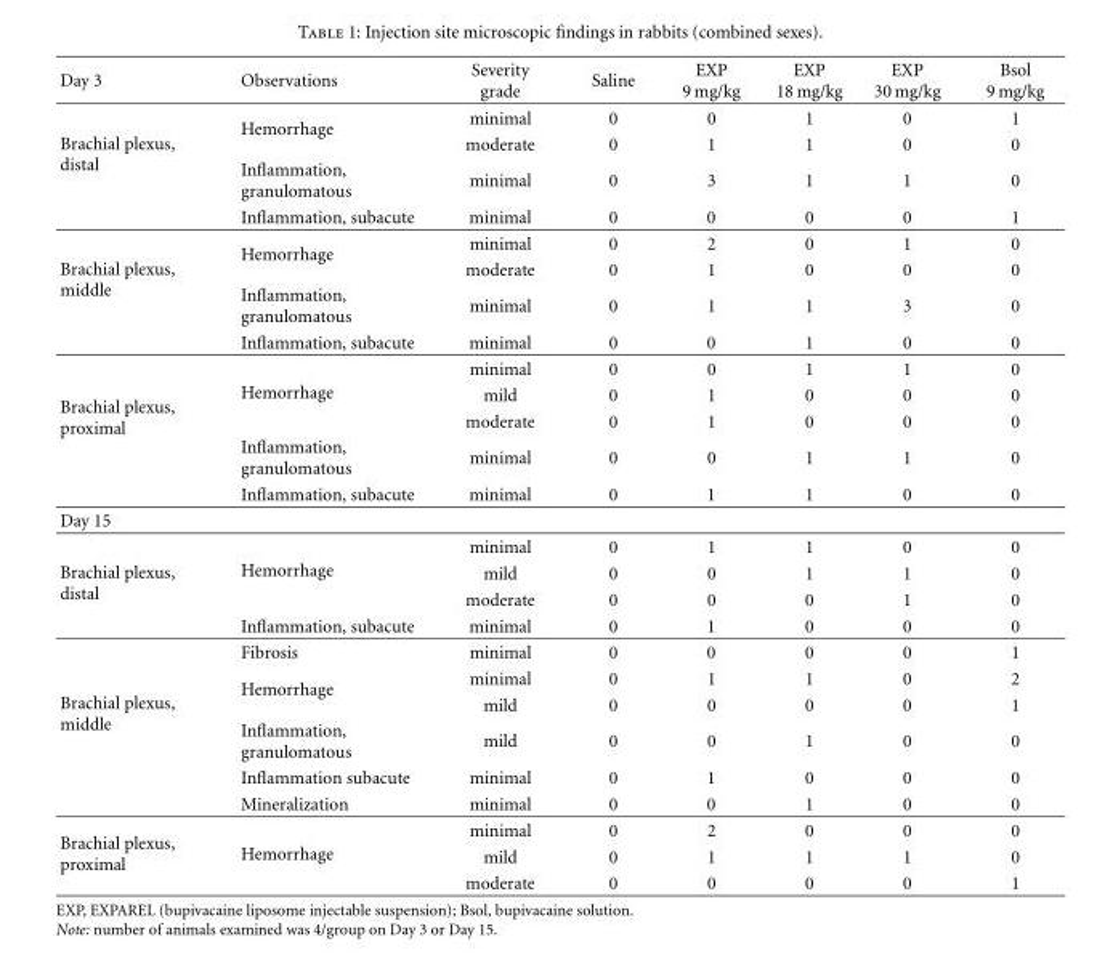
<table><thead><tr><td>Day 3</td><td>Observations</td><td>Severity grade</td><td>Saline</td><td>EXP 9 mg/kg</td><td>EXP 18 mg/kg</td><td>EXP 30 mg/kg</td><td>Bsol 9 mg/kg</td></tr></thead><tbody><tr><td rowspan="4">Brachial plexus, distal</td><td rowspan="2">Hemorrhage</td><td>minimal</td><td>0</td><td>0</td><td>1</td><td>0</td><td>1</td></tr><tr><td>moderate</td><td>0</td><td>1</td><td>1</td><td>0</td><td>0</td></tr><tr><td>Inflammation, granulomatous</td><td>minimal</td><td>0</td><td>3</td><td>1</td><td>1</td><td>0</td></tr><tr><td>Inflammation, subacute</td><td>minimal</td><td>0</td><td>0</td><td>0</td><td>0</td><td>1</td></tr><tr><td rowspan="4">Brachial plexus, middle</td><td rowspan="2">Hemorrhage</td><td>minimal</td><td>0</td><td>2</td><td>0</td><td>1</td><td>0</td></tr><tr><td>moderate</td><td>0</td><td>1</td><td>0</td><td>0</td><td>0</td></tr><tr><td>Inflammation, granulomatous</td><td>minimal</td><td>0</td><td>1</td><td>1</td><td>3</td><td>0</td></tr><tr><td>Inflammation, subacute</td><td>minimal</td><td>0</td><td>0</td><td>1</td><td>0</td><td>0</td></tr><tr><td rowspan="5">Brachial plexus, proximal</td><td rowspan="3">Hemorrhage</td><td>minimal</td><td>0</td><td>0</td><td>1</td><td>1</td><td>0</td></tr><tr><td>mild</td><td>0</td><td>1</td><td>0</td><td>0</td><td>0</td></tr><tr><td>moderate</td><td>0</td><td>1</td><td>0</td><td>0</td><td>0</td></tr><tr><td>Inflammation, granulomatous</td><td>minimal</td><td>0</td><td>0</td><td>1</td><td>1</td><td>0</td></tr><tr><td>Inflammation, subacute</td><td>minimal</td><td>0</td><td>1</td><td>1</td><td>0</td><td>0</td></tr><tr><td colspan="8">Day 15</td></tr><tr><td rowspan="4">Brachial plexus, distal</td><td rowspan="3">Hemorrhage</td><td>minimal</td><td>0</td><td>1</td><td>1</td><td>0</td><td>0</td></tr><tr><td>mild</td><td>0</td><td>0</td><td>1</td><td>1</td><td>0</td></tr><tr><td>moderate</td><td>0</td><td>0</td><td>0</td><td>1</td><td>0</td></tr><tr><td>Inflammation, subacute</td><td>minimal</td><td>0</td><td>1</td><td>0</td><td>0</td><td>0</td></tr><tr><td rowspan="6">Brachial plexus, middle</td><td>Fibrosis</td><td>minimal</td><td>0</td><td>0</td><td>0</td><td>0</td><td>1</td></tr><tr><td rowspan="2">Hemorrhage</td><td>minimal</td><td>0</td><td>1</td><td>1</td><td>0</td><td>2</td></tr><tr><td>mild</td><td>0</td><td>0</td><td>0</td><td>0</td><td>1</td></tr><tr><td>Inflammation, granulomatous</td><td>mild</td><td>0</td><td>0</td><td>1</td><td>0</td><td>0</td></tr><tr><td>Inflammation subacute</td><td>minimal</td><td>0</td><td>1</td><td>0</td><td>0</td><td>0</td></tr><tr><td>Mineralization</td><td>minimal</td><td>0</td><td>0</td><td>1</td><td>0</td><td>0</td></tr><tr><td rowspan="3">Brachial plexus, proximal</td><td rowspan="3">Hemorrhage</td><td>minimal</td><td>0</td><td>2</td><td>0</td><td>0</td><td>0</td></tr><tr><td>mild</td><td>0</td><td>1</td><td>1</td><td>1</td><td>0</td></tr><tr><td>moderate</td><td>0</td><td>0</td><td>0</td><td>0</td><td>1</td></tr></tbody></table>